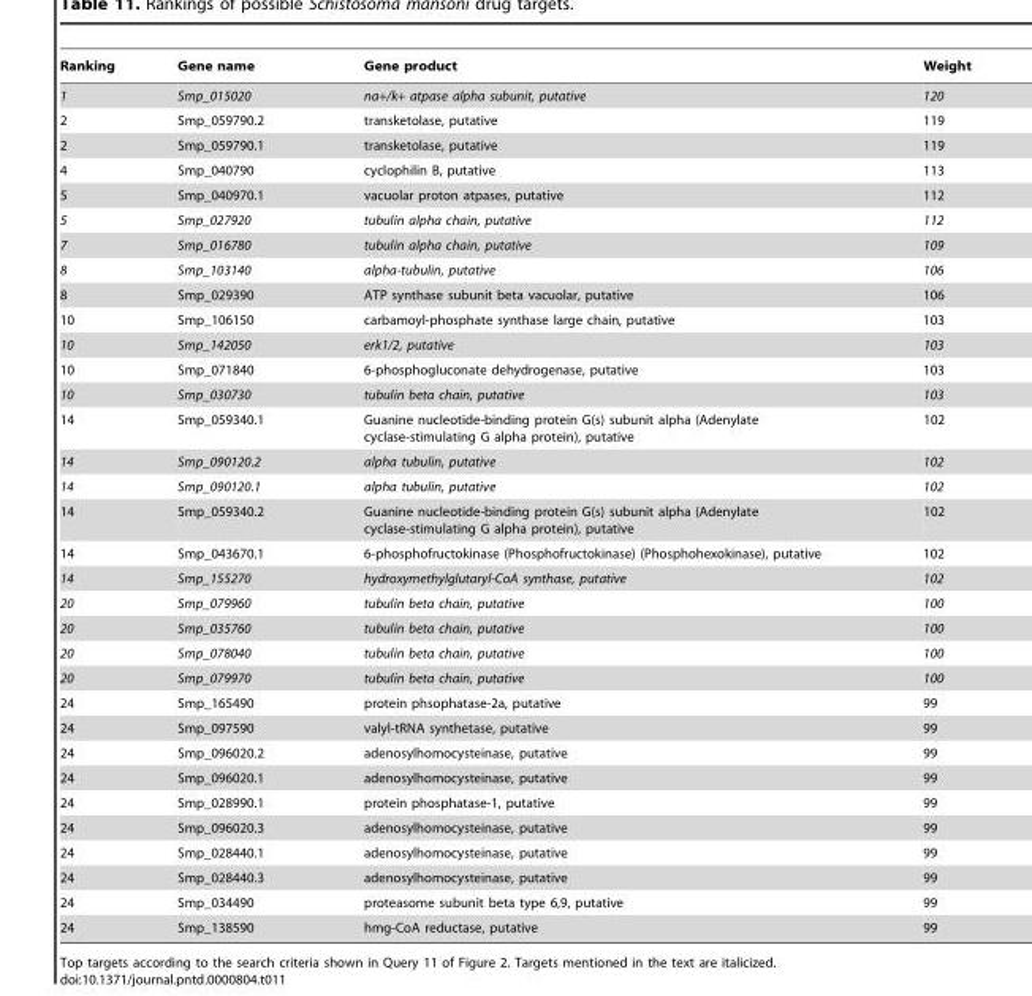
<table><thead><tr><td>Ranking</td><td>Gene name</td><td>Gene product</td><td>Weight</td></tr></thead><tbody><tr><td>1</td><td>Smp_015020</td><td>na+/k+ atpase alpha subunit, putative</td><td>120</td></tr><tr><td>2</td><td>Smp_059790.2</td><td>transketolase, putative</td><td>119</td></tr><tr><td>2</td><td>Smp_059790.1</td><td>transketolase, putative</td><td>119</td></tr><tr><td>4</td><td>Smp_040790</td><td>cyclophilin B, putative</td><td>113</td></tr><tr><td>5</td><td>Smp_040970.1</td><td>vacuolar proton atpases, putative</td><td>112</td></tr><tr><td>5</td><td>Smp_027920</td><td>tubulin alpha chain, putative</td><td>112</td></tr><tr><td>7</td><td>Smp_016780</td><td>tubulin alpha chain, putative</td><td>109</td></tr><tr><td>8</td><td>Smp_103140</td><td>alpha-tubulin, putative</td><td>106</td></tr><tr><td>8</td><td>Smp_029390</td><td>ATP synthase subunit beta vacuolar, putative</td><td>106</td></tr><tr><td>10</td><td>Smp_106150</td><td>carbamoyl-phosphate synthase large chain, putative</td><td>103</td></tr><tr><td>10</td><td>Smp_142050</td><td>erk1/2, putative</td><td>103</td></tr><tr><td>10</td><td>Smp_071840</td><td>6-phosphogluconate dehydrogenase, putative</td><td>103</td></tr><tr><td>10</td><td>Smp_030730</td><td>tubulin beta chain, putative</td><td>103</td></tr><tr><td>14</td><td>Smp_059340.1</td><td>Guanine nucleotide-binding protein G(s) subunit alpha (Adenylate cyclase-stimulating G alpha protein), putative</td><td>102</td></tr><tr><td>14</td><td>Smp_090120.2</td><td>alpha tubulin, putative</td><td>102</td></tr><tr><td>14</td><td>Smp_090120.1</td><td>alpha tubulin, putative</td><td>102</td></tr><tr><td>14</td><td>Smp_059340.2</td><td>Guanine nucleotide-binding protein G(s) subunit alpha (Adenylate cyclase-stimulating G alpha protein), putative</td><td>102</td></tr><tr><td>14</td><td>Smp_043670.1</td><td>6-phosphofructokinase (Phosphofructokinase) (Phosphohexokinase), putative</td><td>102</td></tr><tr><td>14</td><td>Smp_155270</td><td>hydroxymethylglutaryl-CoA synthase, putative</td><td>102</td></tr><tr><td>20</td><td>Smp_079960</td><td>tubulin beta chain, putative</td><td>100</td></tr><tr><td>20</td><td>Smp_035760</td><td>tubulin beta chain, putative</td><td>100</td></tr><tr><td>20</td><td>Smp_078040</td><td>tubulin beta chain, putative</td><td>100</td></tr><tr><td>20</td><td>Smp_079970</td><td>tubulin beta chain, putative</td><td>100</td></tr><tr><td>24</td><td>Smp_165490</td><td>protein phsophatase-2a, putative</td><td>99</td></tr><tr><td>24</td><td>Smp_097590</td><td>valyl-tRNA synthetase, putative</td><td>99</td></tr><tr><td>24</td><td>Smp_096020.2</td><td>adenosylhomocysteinase, putative</td><td>99</td></tr><tr><td>24</td><td>Smp_096020.1</td><td>adenosylhomocysteinase, putative</td><td>99</td></tr><tr><td>24</td><td>Smp_028990.1</td><td>protein phosphatase-1, putative</td><td>99</td></tr><tr><td>24</td><td>Smp_096020.3</td><td>adenosylhomocysteinase, putative</td><td>99</td></tr><tr><td>24</td><td>Smp_028440.1</td><td>adenosylhomocysteinase, putative</td><td>99</td></tr><tr><td>24</td><td>Smp_028440.3</td><td>adenosylhomocysteinase, putative</td><td>99</td></tr><tr><td>24</td><td>Smp_034490</td><td>proteasome subunit beta type 6,9, putative</td><td>99</td></tr><tr><td>24</td><td>Smp_138590</td><td>hmg-CoA reductase, putative</td><td>99</td></tr></tbody></table>